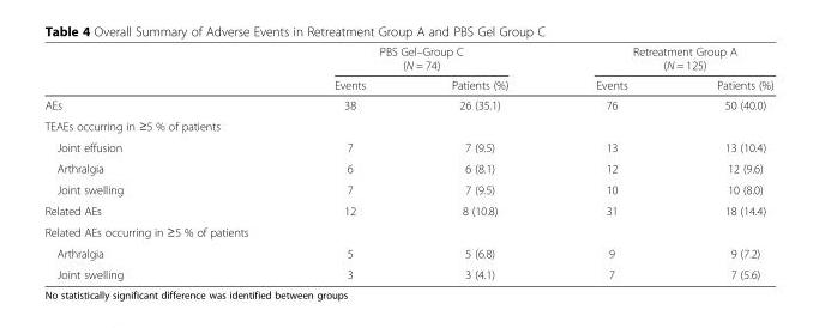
<table><thead><tr><td rowspan="3"></td><td rowspan="2" colspan="2">PBS Gel–Group C (N = 74)</td><td rowspan="2" colspan="2">Retreatment Group A (N = 125)</td></tr><tr></tr><tr><td>Events</td><td>Patients (%)</td><td>Events</td><td>Patients (%)</td></tr></thead><tbody><tr><td>AEs</td><td>38</td><td>26 (35.1)</td><td>76</td><td>50 (40.0)</td></tr><tr><td colspan="5">TEAEs occurring in ≥5 % of patients</td></tr><tr><td>Joint effusion</td><td>7</td><td>7 (9.5)</td><td>13</td><td>13 (10.4)</td></tr><tr><td>Arthralgia</td><td>6</td><td>6 (8.1)</td><td>12</td><td>12 (9.6)</td></tr><tr><td>Joint swelling</td><td>7</td><td>7 (9.5)</td><td>10</td><td>10 (8.0)</td></tr><tr><td>Related AEs</td><td>12</td><td>8 (10.8)</td><td>31</td><td>18 (14.4)</td></tr><tr><td colspan="5">Related AEs occurring in ≥5 % of patients</td></tr><tr><td>Arthralgia</td><td>5</td><td>5 (6.8)</td><td>9</td><td>9 (7.2)</td></tr><tr><td>Joint swelling</td><td>3</td><td>3 (4.1)</td><td>7</td><td>7 (5.6)</td></tr></tbody></table>